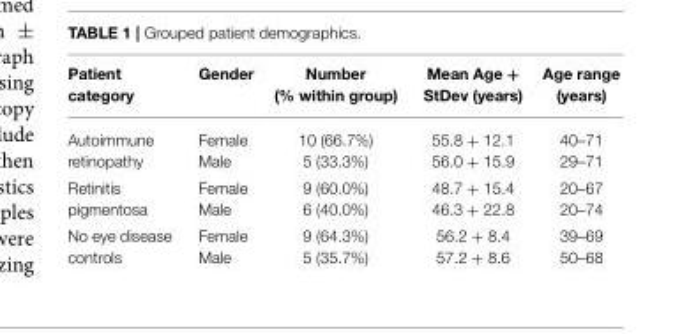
<table><thead><tr><td>Patient category</td><td>Gender</td><td>Number (% within group)</td><td>Mean Age + StDev (years)</td><td>Age range (years)</td></tr></thead><tbody><tr><td>Autoimmune retinopathy</td><td>Female Male</td><td>10 (66.7%) 5 (33.3%)</td><td>55.8 + 12.1 56.0 + 15.9</td><td>40–71 29–71</td></tr><tr><td>Retinitis pigmentosa</td><td>Female Male</td><td>9 (60.0%) 6 (40.0%)</td><td>48.7 + 15.4 46.3 + 22.8</td><td>20–67 20–74</td></tr><tr><td>No eye disease controls</td><td>Female Male</td><td>9 (64.3%) 5 (35.7%)</td><td>56.2 + 8.4 57.2 + 8.6</td><td>39–69 50–68</td></tr></tbody></table>